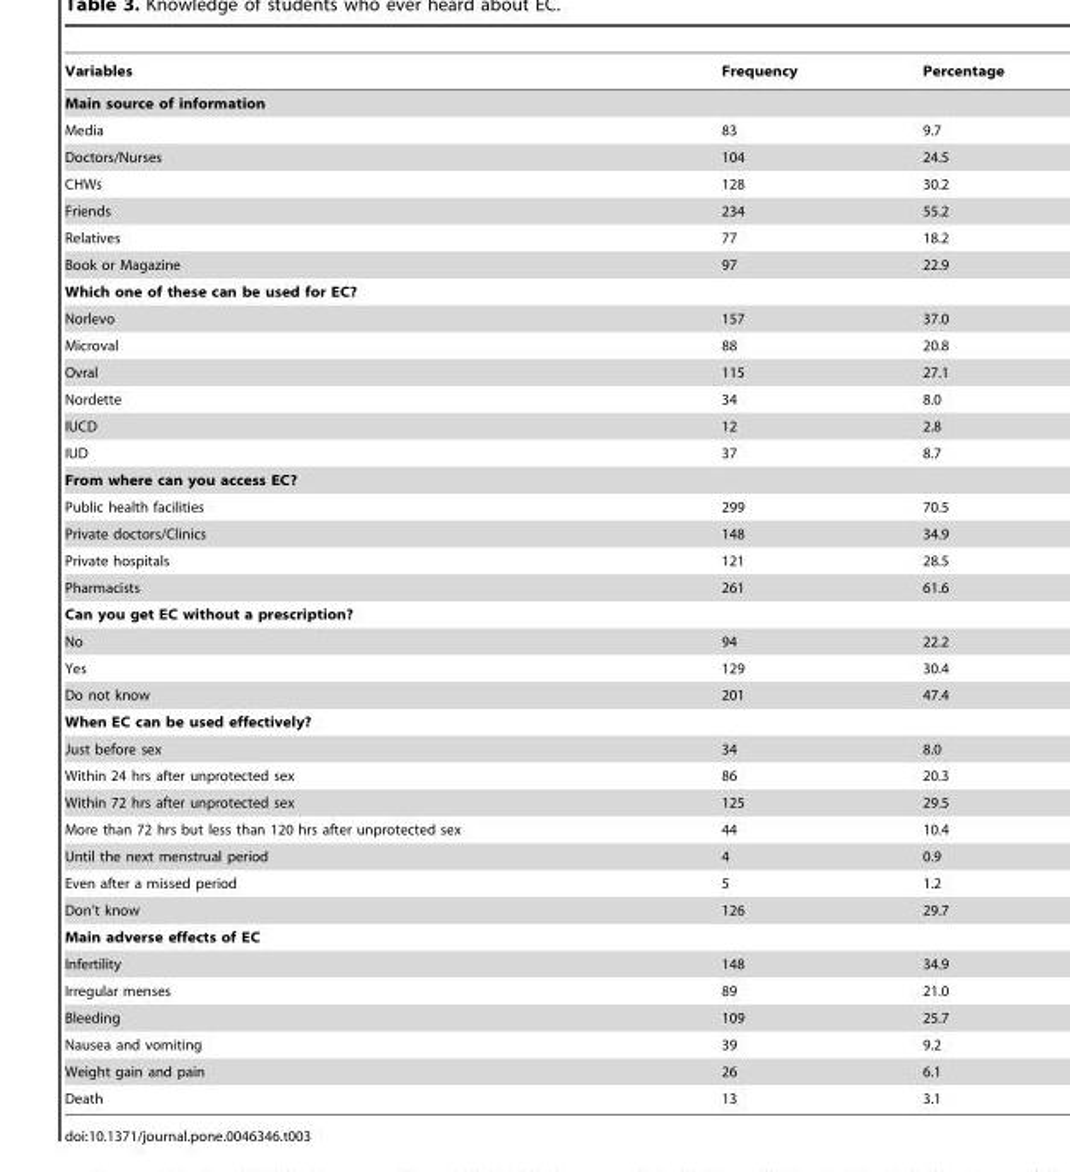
<table><thead><tr><td>Variables</td><td>Frequency</td><td>Percentage</td></tr></thead><tbody><tr><td colspan="3">Main source of information</td></tr><tr><td>Media</td><td>83</td><td>9.7</td></tr><tr><td>Doctors/Nurses</td><td>104</td><td>24.5</td></tr><tr><td>CHWs</td><td>128</td><td>30.2</td></tr><tr><td>Friends</td><td>234</td><td>55.2</td></tr><tr><td>Relatives</td><td>77</td><td>18.2</td></tr><tr><td>Book or Magazine</td><td>97</td><td>22.9</td></tr><tr><td colspan="3">Which one of these can be used for EC?</td></tr><tr><td>Norlevo</td><td>157</td><td>37.0</td></tr><tr><td>Microval</td><td>88</td><td>20.8</td></tr><tr><td>Ovral</td><td>115</td><td>27.1</td></tr><tr><td>Nordette</td><td>34</td><td>8.0</td></tr><tr><td>IUCD</td><td>12</td><td>2.8</td></tr><tr><td>IUD</td><td>37</td><td>8.7</td></tr><tr><td colspan="3">From where can you access EC?</td></tr><tr><td>Public health facilities</td><td>299</td><td>70.5</td></tr><tr><td>Private doctors/Clinics</td><td>148</td><td>34.9</td></tr><tr><td>Private hospitals</td><td>121</td><td>28.5</td></tr><tr><td>Pharmacists</td><td>261</td><td>61.6</td></tr><tr><td colspan="3">Can you get EC without a prescription?</td></tr><tr><td>No</td><td>94</td><td>22.2</td></tr><tr><td>Yes</td><td>129</td><td>30.4</td></tr><tr><td>Do not know</td><td>201</td><td>47.4</td></tr><tr><td colspan="3">When EC can be used effectively?</td></tr><tr><td>Just before sex</td><td>34</td><td>8.0</td></tr><tr><td>Within 24 hrs after unprotected sex</td><td>86</td><td>20.3</td></tr><tr><td>Within 72 hrs after unprotected sex</td><td>125</td><td>29.5</td></tr><tr><td>More than 72 hrs but less than 120 hrs after unprotected sex</td><td>44</td><td>10.4</td></tr><tr><td>Until the next menstrual period</td><td>4</td><td>0.9</td></tr><tr><td>Even after a missed period</td><td>5</td><td>1.2</td></tr><tr><td>Don’t know</td><td>126</td><td>29.7</td></tr><tr><td colspan="3">Main adverse effects of EC</td></tr><tr><td>Infertility</td><td>148</td><td>34.9</td></tr><tr><td>Irregular menses</td><td>89</td><td>21.0</td></tr><tr><td>Bleeding</td><td>109</td><td>25.7</td></tr><tr><td>Nausea and vomiting</td><td>39</td><td>9.2</td></tr><tr><td>Weight gain and pain</td><td>26</td><td>6.1</td></tr><tr><td>Death</td><td>13</td><td>3.1</td></tr></tbody></table>